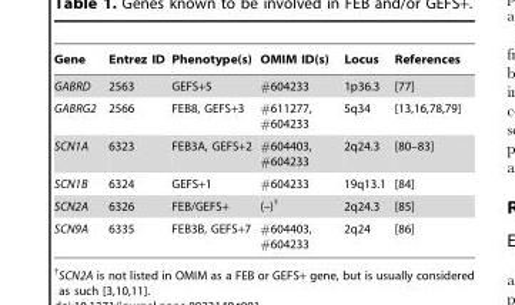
<table><thead><tr><td>Gene</td><td>Entrez ID</td><td>Phenotype(s)</td><td>OMIM ID(s)</td><td>Locus</td><td>References</td></tr></thead><tbody><tr><td>GABRD</td><td>2563</td><td>GEFS+5</td><td>#604233</td><td>1p36.3</td><td>[77]</td></tr><tr><td>GABRG2</td><td>2566</td><td>FEB8, GEFS+3</td><td>#611277, #604233</td><td>5q34</td><td>[13,16,78,79]</td></tr><tr><td>SCN1A</td><td>6323</td><td>FEB3A, GEFS+2</td><td>#604403, #604233</td><td>2q24.3</td><td>[80–83]</td></tr><tr><td>SCN1B</td><td>6324</td><td>GEFS+1</td><td>#604233</td><td>19q13.1</td><td>[84]</td></tr><tr><td>SCN2A</td><td>6326</td><td>FEB/GEFS+</td><td>(–)†</td><td>2q24.3</td><td>[85]</td></tr><tr><td>SCN9A</td><td>6335</td><td>FEB3B, GEFS+7</td><td>#604403, #604233</td><td>2q24</td><td>[86]</td></tr></tbody></table>